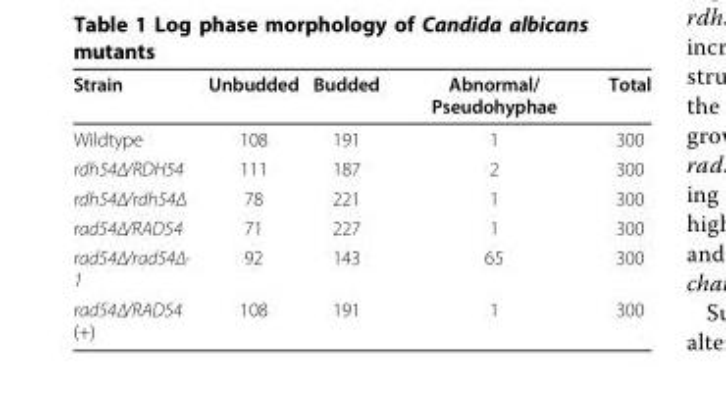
<table><thead><tr><td>Strain</td><td>Unbudded</td><td>Budded</td><td>Abnormal/ Pseudohyphae</td><td>Total</td></tr></thead><tbody><tr><td>Wildtype</td><td>108</td><td>191</td><td>1</td><td>300</td></tr><tr><td>rdh54Δ/RDH54</td><td>111</td><td>187</td><td>2</td><td>300</td></tr><tr><td>rdh54Δ/rdh54Δ</td><td>78</td><td>221</td><td>1</td><td>300</td></tr><tr><td>rad54Δ/RAD54</td><td>71</td><td>227</td><td>1</td><td>300</td></tr><tr><td>rad54Δ/rad54Δ- 1</td><td>92</td><td>143</td><td>65</td><td>300</td></tr><tr><td>rad54Δ/RAD54 (+)</td><td>108</td><td>191</td><td>1</td><td>300</td></tr></tbody></table>